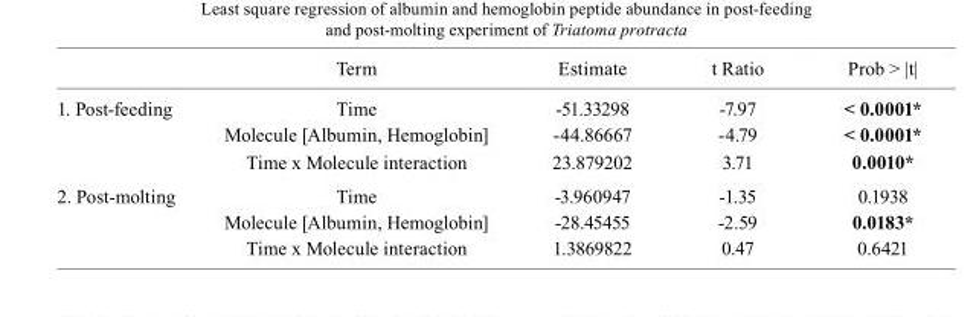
<table><thead><tr><td></td><td>Term</td><td>Estimate</td><td>t Ratio</td><td>Prob &gt; |t|</td></tr></thead><tbody><tr><td rowspan="3">1. Post-feeding</td><td>Time</td><td>-51.33298</td><td>-7.97</td><td>&lt; 0.0001*</td></tr><tr><td>Molecule [Albumin, Hemoglobin]</td><td>-44.86667</td><td>-4.79</td><td>&lt; 0.0001*</td></tr><tr><td>Time x Molecule interaction</td><td>23.879202</td><td>3.71</td><td>0.0010*</td></tr><tr><td rowspan="3">2. Post-molting</td><td>Time</td><td>-3.960947</td><td>-1.35</td><td>0.1938</td></tr><tr><td>Molecule [Albumin, Hemoglobin]</td><td>-28.45455</td><td>-2.59</td><td>0.0183*</td></tr><tr><td>Time x Molecule interaction</td><td>1.3869822</td><td>0.47</td><td>0.6421</td></tr></tbody></table>